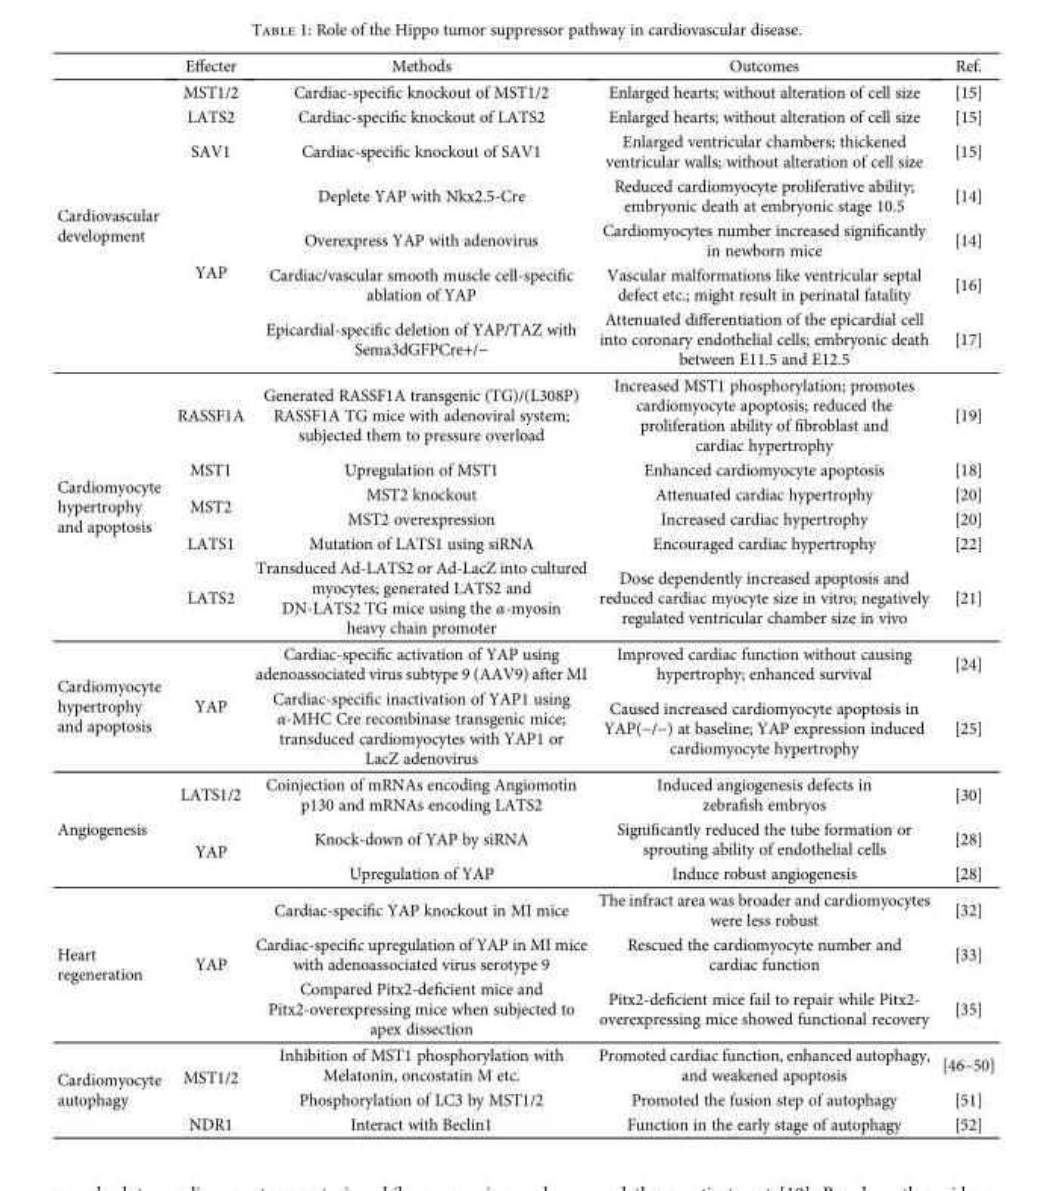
<table><thead><tr><td></td><td>Effecter</td><td>Methods</td><td>Outcomes</td><td>Ref.</td></tr></thead><tbody><tr><td rowspan="7">Cardiovascular development</td><td>MST1/2</td><td>Cardiac-specific knockout of MST1/2</td><td>Enlarged hearts; without alteration of cell size</td><td>[15]</td></tr><tr><td>LATS2</td><td>Cardiac-specific knockout of LATS2</td><td>Enlarged hearts; without alteration of cell size</td><td>[15]</td></tr><tr><td>SAV1</td><td>Cardiac-specific knockout of SAV1</td><td>Enlarged ventricular chambers; thickened ventricular walls; without alteration of cell size</td><td>[15]</td></tr><tr><td rowspan="4">YAP</td><td>Deplete YAP with Nkx2.5-Cre</td><td>Reduced cardiomyocyte proliferative ability; embryonic death at embryonic stage 10.5</td><td>[14]</td></tr><tr><td>Overexpress YAP with adenovirus</td><td>Cardiomyocytes number increased significantly in newborn mice</td><td>[14]</td></tr><tr><td>Cardiac/vascular smooth muscle cell-specific ablation of YAP</td><td>Vascular malformations like ventricular septal defect etc.; might result in perinatal fatality</td><td>[16]</td></tr><tr><td>Epicardial-specific deletion of YAP/TAZ with Sema3dGFPCre+/−</td><td>Attenuated differentiation of the epicardial cell into coronary endothelial cells; embryonic death between E11.5 and E12.5</td><td>[17]</td></tr><tr><td rowspan="6">Cardiomyocyte hypertrophy and apoptosis</td><td>RASSF1A</td><td>Generated RASSF1A transgenic (TG)/(L308P) RASSF1A TG mice with adenoviral system; subjected them to pressure overload</td><td>Increased MST1 phosphorylation; promotes cardiomyocyte apoptosis; reduced the proliferation ability of fibroblast and cardiac hypertrophy</td><td>[19]</td></tr><tr><td>MST1</td><td>Upregulation of MST1</td><td>Enhanced cardiomyocyte apoptosis</td><td>[18]</td></tr><tr><td rowspan="2">MST2</td><td>MST2 knockout</td><td>Attenuated cardiac hypertrophy</td><td>[20]</td></tr><tr><td>MST2 overexpression</td><td>Increased cardiac hypertrophy</td><td>[20]</td></tr><tr><td>LATS1</td><td>Mutation of LATS1 using siRNA</td><td>Encouraged cardiac hypertrophy</td><td>[22]</td></tr><tr><td>LATS2</td><td>Transduced Ad-LATS2 or Ad-LacZ into cultured myocytes; generated LATS2 and DN-LATS2 TG mice using the α-myosin heavy chain promoter</td><td>Dose dependently increased apoptosis and reduced cardiac myocyte size in vitro; negatively regulated ventricular chamber size in vivo</td><td>[21]</td></tr><tr><td rowspan="2">Cardiomyocyte hypertrophy and apoptosis</td><td rowspan="2">YAP</td><td>Cardiac-specific activation of YAP using adenoassociated virus subtype 9 (AAV9) after MI</td><td>Improved cardiac function without causing hypertrophy; enhanced survival</td><td>[24]</td></tr><tr><td>Cardiac-specific inactivation of YAP1 using α-MHC Cre recombinase transgenic mice; transduced cardiomyocytes with YAP1 or LacZ adenovirus</td><td>Caused increased cardiomyocyte apoptosis in YAP(−/−) at baseline; YAP expression induced cardiomyocyte hypertrophy</td><td>[25]</td></tr><tr><td rowspan="3">Angiogenesis</td><td>LATS1/2</td><td>Coinjection of mRNAs encoding Angiomotin p130 and mRNAs encoding LATS2</td><td>Induced angiogenesis defects in zebrafish embryos</td><td>[30]</td></tr><tr><td rowspan="2">YAP</td><td>Knock-down of YAP by siRNA</td><td>Significantly reduced the tube formation or sprouting ability of endothelial cells</td><td>[28]</td></tr><tr><td>Upregulation of YAP</td><td>Induce robust angiogenesis</td><td>[28]</td></tr><tr><td rowspan="3">Heart regeneration</td><td rowspan="3">YAP</td><td>Cardiac-specific YAP knockout in MI mice</td><td>The infract area was broader and cardiomyocytes were less robust</td><td>[32]</td></tr><tr><td>Cardiac-specific upregulation of YAP in MI mice with adenoassociated virus serotype 9</td><td>Rescued the cardiomyocyte number and cardiac function</td><td>[33]</td></tr><tr><td>Compared Pitx2-deficient mice and Pitx2-overexpressing mice when subjected to apex dissection</td><td>Pitx2-deficient mice fail to repair while Pitx2- overexpressing mice showed functional recovery</td><td>[35]</td></tr><tr><td rowspan="3">Cardiomyocyte autophagy</td><td rowspan="2">MST1/2</td><td>Inhibition of MST1 phosphorylation with Melatonin, oncostatin M etc.</td><td>Promoted cardiac function, enhanced autophagy, and weakened apoptosis</td><td>[46–50]</td></tr><tr><td>Phosphorylation of LC3 by MST1/2</td><td>Promoted the fusion step of autophagy</td><td>[51]</td></tr><tr><td>NDR1</td><td>Interact with Beclin1</td><td>Function in the early stage of autophagy</td><td>[52]</td></tr></tbody></table>